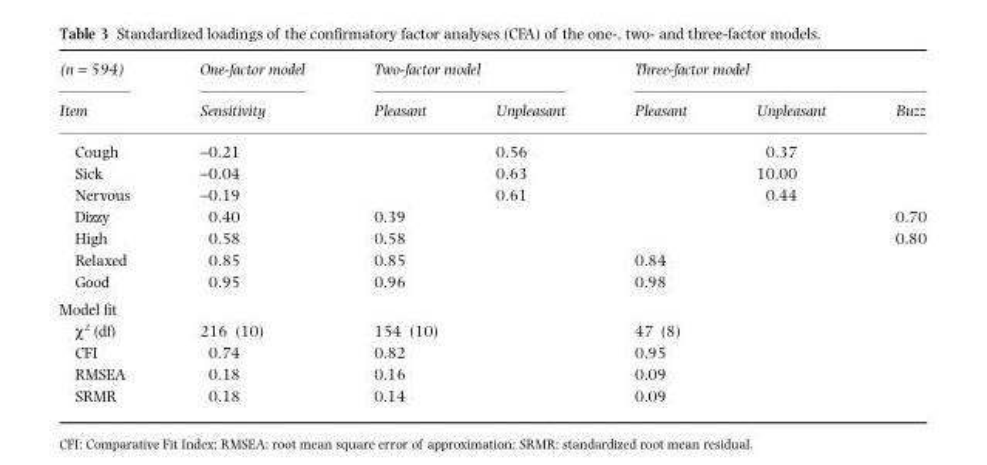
<table><thead><tr><td rowspan="2">(n = 594) Item</td><td rowspan="2">One-factor model Sensitivity</td><td colspan="2">Two-factor model</td><td colspan="3">Three-factor model</td></tr><tr><td>Pleasant</td><td>Unpleasant</td><td>Pleasant</td><td>Unpleasant</td><td>Buzz</td></tr></thead><tbody><tr><td>Cough</td><td>-0.21</td><td></td><td>0.56</td><td></td><td>0.37</td><td></td></tr><tr><td>Sick</td><td>-0.04</td><td></td><td>0.63</td><td></td><td>10.00</td><td></td></tr><tr><td>Nervous</td><td>-0.19</td><td></td><td>0.61</td><td></td><td>0.44</td><td></td></tr><tr><td>Dizzy</td><td>0.40</td><td>0.39</td><td></td><td></td><td></td><td>0.70</td></tr><tr><td>High</td><td>0.58</td><td>0.58</td><td></td><td></td><td></td><td>0.80</td></tr><tr><td>Relaxed</td><td>0.85</td><td>0.85</td><td></td><td>0.84</td><td></td><td></td></tr><tr><td>Good</td><td>0.95</td><td>0.96</td><td></td><td>0.98</td><td></td><td></td></tr><tr><td colspan="7">Model fit</td></tr><tr><td>χ<sup>2</sup> (df)</td><td>216 (10)</td><td>154 (10)</td><td></td><td>47 (8)</td><td></td><td></td></tr><tr><td>CFI</td><td>0.74</td><td>0.82</td><td></td><td>0.95</td><td></td><td></td></tr><tr><td>RMSEA</td><td>0.18</td><td>0.16</td><td></td><td>0.09</td><td></td><td></td></tr><tr><td>SRMR</td><td>0.18</td><td>0.14</td><td></td><td>0.09</td><td></td><td></td></tr></tbody></table>